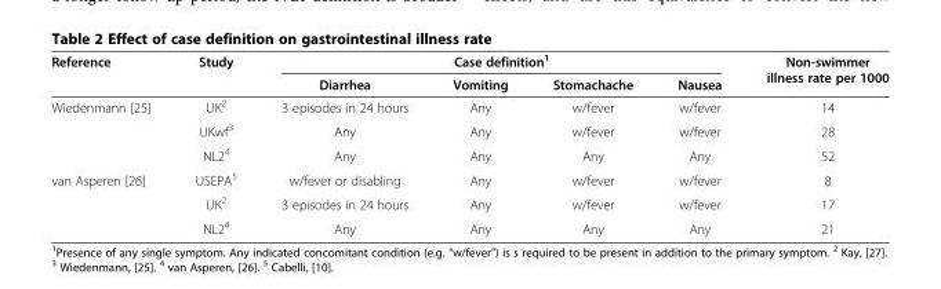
<table><thead><tr><td rowspan="2">Reference</td><td rowspan="2">Study</td><td colspan="4">Case definition<sup>1</sup></td><td rowspan="2">Non-swimmer illness rate per 1000</td></tr><tr><td>Diarrhea</td><td>Vomiting</td><td>Stomachache</td><td>Nausea</td></tr></thead><tbody><tr><td rowspan="3">Wiedenmann [25]</td><td>UK<sup>2</sup></td><td>3 episodes in 24 hours</td><td>Any</td><td>w/fever</td><td>w/fever</td><td>14</td></tr><tr><td>UKwf<sup>3</sup></td><td>Any</td><td>Any</td><td>w/fever</td><td>w/fever</td><td>28</td></tr><tr><td>NL2<sup>4</sup></td><td>Any</td><td>Any</td><td>Any</td><td>Any</td><td>52</td></tr><tr><td rowspan="3">van Asperen [26]</td><td>USEPA<sup>5</sup></td><td>w/fever or disabling</td><td>Any</td><td>w/fever</td><td>w/fever</td><td>8</td></tr><tr><td>UK<sup>2</sup></td><td>3 episodes in 24 hours</td><td>Any</td><td>w/fever</td><td>w/fever</td><td>17</td></tr><tr><td>NL2<sup>4</sup></td><td>Any</td><td>Any</td><td>Any</td><td>Any</td><td>21</td></tr></tbody></table>